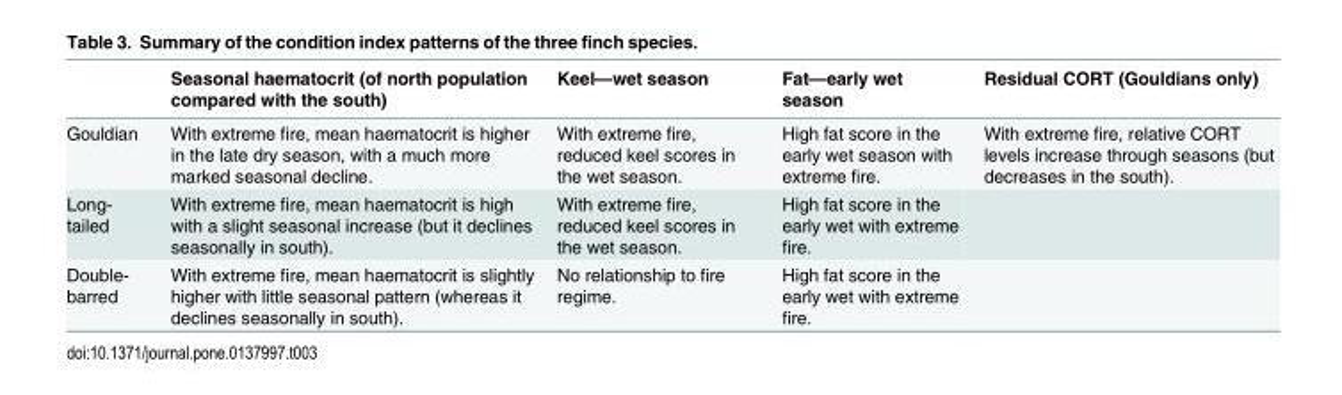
<table><thead><tr><td></td><td>Seasonal haematocrit (of north population compared with the south)</td><td>Keel—wet season</td><td>Fat—early wet season</td><td>Residual CORT (Gouldians only)</td></tr></thead><tbody><tr><td>Gouldian</td><td>With extreme fire, mean haematocrit is higher in the late dry season, with a much more marked seasonal decline.</td><td>With extreme fire, reduced keel scores in the wet season.</td><td>High fat score in the early wet season with extreme fire.</td><td>With extreme fire, relative CORT levels increase through seasons (but decreases in the south).</td></tr><tr><td>Long- tailed</td><td>With extreme fire, mean haematocrit is high with a slight seasonal increase (but it declines seasonally in south).</td><td>With extreme fire, reduced keel scores in the wet season.</td><td>High fat score in the early wet with extreme fire.</td><td></td></tr><tr><td>Double- barred</td><td>With extreme fire, mean haematocrit is slightly higher with little seasonal pattern (whereas it declines seasonally in south).</td><td>No relationship to fire regime.</td><td>High fat score in the early wet with extreme fire.</td><td></td></tr></tbody></table>